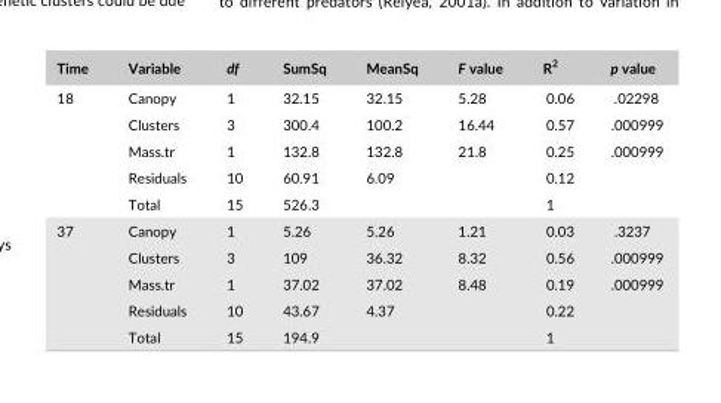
<table><thead><tr><td>Time</td><td>Variable</td><td>df</td><td>SumSq</td><td>MeanSq</td><td>F value</td><td>R<sup>2</sup></td><td>p value</td></tr></thead><tbody><tr><td rowspan="5">18</td><td>Canopy</td><td>1</td><td>32.15</td><td>32.15</td><td>5.28</td><td>0.06</td><td>.02298</td></tr><tr><td>Clusters</td><td>3</td><td>300.4</td><td>100.2</td><td>16.44</td><td>0.57</td><td>.000999</td></tr><tr><td>Mass.tr</td><td>1</td><td>132.8</td><td>132.8</td><td>21.8</td><td>0.25</td><td>.000999</td></tr><tr><td>Residuals</td><td>10</td><td>60.91</td><td>6.09</td><td></td><td>0.12</td><td></td></tr><tr><td>Total</td><td>15</td><td>526.3</td><td></td><td></td><td>1</td><td></td></tr><tr><td rowspan="5">37</td><td>Canopy</td><td>1</td><td>5.26</td><td>5.26</td><td>1.21</td><td>0.03</td><td>.3237</td></tr><tr><td>Clusters</td><td>3</td><td>109</td><td>36.32</td><td>8.32</td><td>0.56</td><td>.000999</td></tr><tr><td>Mass.tr</td><td>1</td><td>37.02</td><td>37.02</td><td>8.48</td><td>0.19</td><td>.000999</td></tr><tr><td>Residuals</td><td>10</td><td>43.67</td><td>4.37</td><td></td><td>0.22</td><td></td></tr><tr><td>Total</td><td>15</td><td>194.9</td><td></td><td></td><td>1</td><td></td></tr></tbody></table>